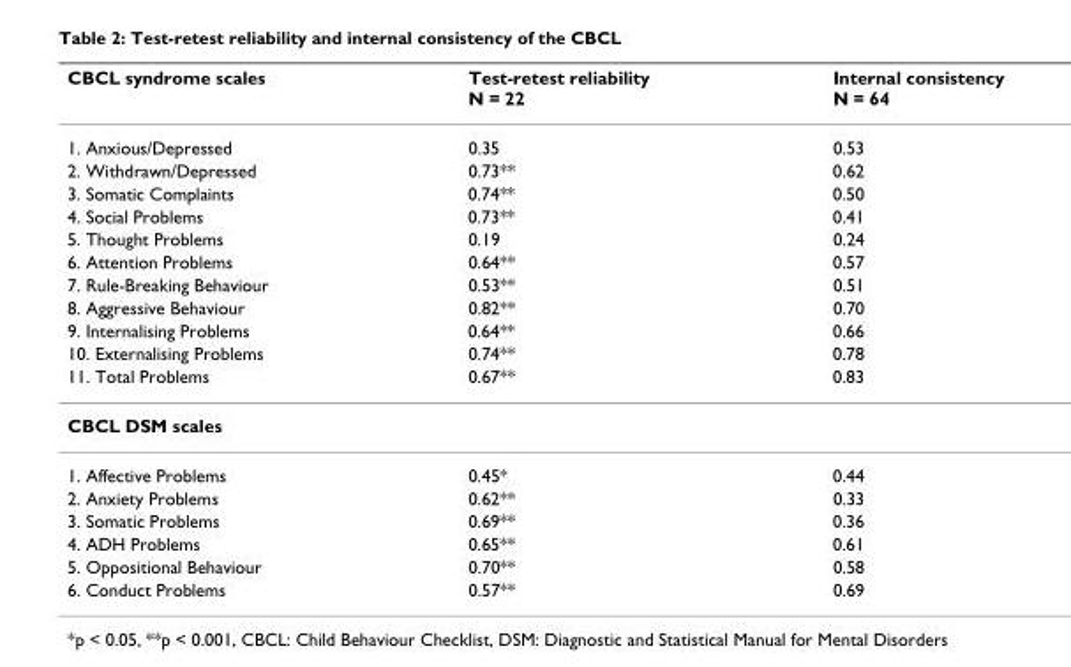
<table><thead><tr><td>CBCL syndrome scales</td><td>Test-retest reliability N = 22</td><td>Internal consistency N = 64</td></tr></thead><tbody><tr><td>1. Anxious/Depressed</td><td>0.35</td><td>0.53</td></tr><tr><td>2. Withdrawn/Depressed</td><td>0.73**</td><td>0.62</td></tr><tr><td>3. Somatic Complaints</td><td>0.74**</td><td>0.50</td></tr><tr><td>4. Social Problems</td><td>0.73**</td><td>0.41</td></tr><tr><td>5. Thought Problems</td><td>0.19</td><td>0.24</td></tr><tr><td>6. Attention Problems</td><td>0.64**</td><td>0.57</td></tr><tr><td>7. Rule-Breaking Behaviour</td><td>0.53**</td><td>0.51</td></tr><tr><td>8. Aggressive Behaviour</td><td>0.82**</td><td>0.70</td></tr><tr><td>9. Internalising Problems</td><td>0.64**</td><td>0.66</td></tr><tr><td>10. Externalising Problems</td><td>0.74**</td><td>0.78</td></tr><tr><td>11. Total Problems</td><td>0.67**</td><td>0.83</td></tr><tr><td colspan="3">CBCL DSM scales</td></tr><tr><td>1. Affective Problems</td><td>0.45*</td><td>0.44</td></tr><tr><td>2. Anxiety Problems</td><td>0.62**</td><td>0.33</td></tr><tr><td>3. Somatic Problems</td><td>0.69**</td><td>0.36</td></tr><tr><td>4. ADH Problems</td><td>0.65**</td><td>0.61</td></tr><tr><td>5. Oppositional Behaviour</td><td>0.70**</td><td>0.58</td></tr><tr><td>6. Conduct Problems</td><td>0.57**</td><td>0.69</td></tr></tbody></table>